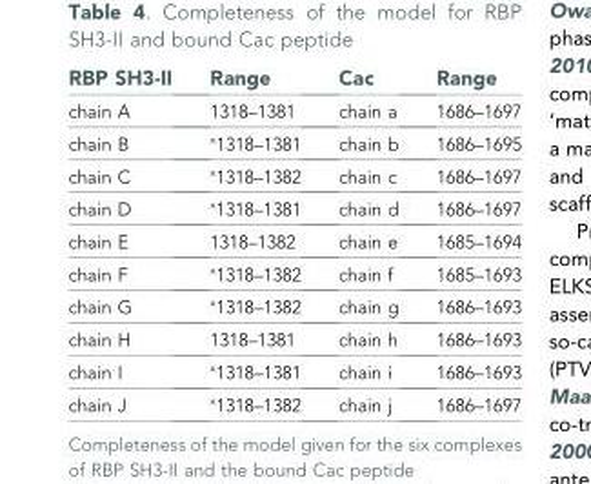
<table><thead><tr><td>RBP SH3-II</td><td>Range</td><td>Cac</td><td>Range</td></tr></thead><tbody><tr><td>chain A</td><td>1318–1381</td><td>chain a</td><td>1686–1697</td></tr><tr><td>chain B</td><td><sup>x</sup>1318–1381</td><td>chain b</td><td>1686–1695</td></tr><tr><td>chain C</td><td><sup>x</sup>1318–1382</td><td>chain c</td><td>1686–1697</td></tr><tr><td>chain D</td><td><sup>x</sup>1318–1381</td><td>chain d</td><td>1686–1697</td></tr><tr><td>chain E</td><td>1318–1382</td><td>chain e</td><td>1685–1694</td></tr><tr><td>chain F</td><td><sup>x</sup>1318–1382</td><td>chain f</td><td>1685–1693</td></tr><tr><td>chain G</td><td><sup>x</sup>1318–1382</td><td>chain g</td><td>1686–1693</td></tr><tr><td>chain H</td><td>1318–1381</td><td>chain h</td><td>1686–1693</td></tr><tr><td>chain I</td><td><sup>x</sup>1318–1381</td><td>chain i</td><td>1686–1693</td></tr><tr><td>chain J</td><td><sup>x</sup>1318–1382</td><td>chain j</td><td>1686–1697</td></tr></tbody></table>